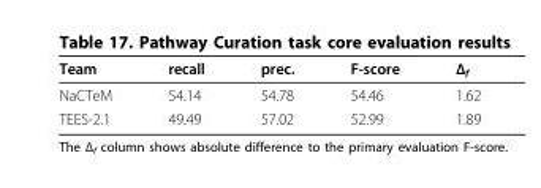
<table><thead><tr><td>Team</td><td>recall</td><td>prec.</td><td>F-score</td><td>Δ<sub>f</sub></td></tr></thead><tbody><tr><td>NaCTeM</td><td>54.14</td><td>54.78</td><td>54.46</td><td>1.62</td></tr><tr><td>TEES-2.1</td><td>49.49</td><td>57.02</td><td>52.99</td><td>1.89</td></tr></tbody></table>